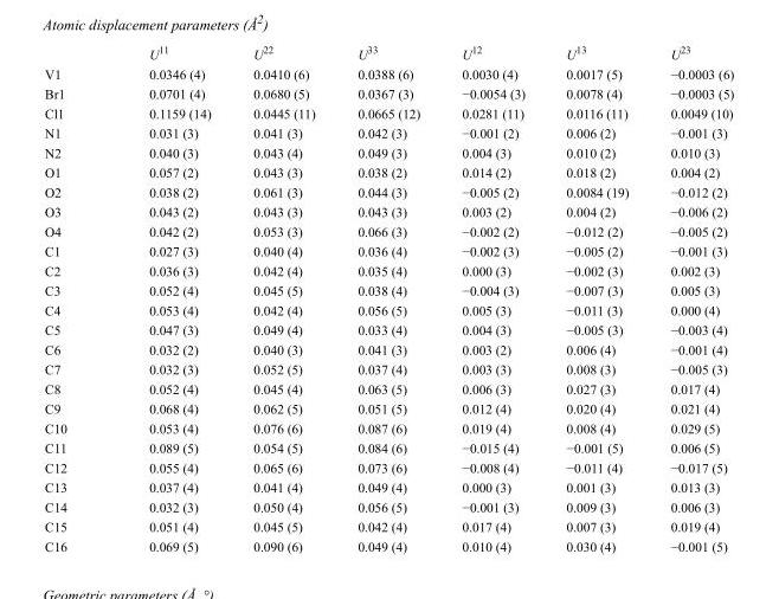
<table><thead><tr><td></td><td>U<sup>11</sup></td><td>U<sup>22</sup></td><td>U<sup>33</sup></td><td>U<sup>12</sup></td><td>U<sup>13</sup></td><td>U<sup>23</sup></td></tr></thead><tbody><tr><td>V1</td><td>0.0346 (4)</td><td>0.0410 (6)</td><td>0.0388 (6)</td><td>0.0030 (4)</td><td>0.0017 (5)</td><td>−0.0003 (6)</td></tr><tr><td>Br1</td><td>0.0701 (4)</td><td>0.0680 (5)</td><td>0.0367 (3)</td><td>−0.0054 (3)</td><td>0.0078 (4)</td><td>−0.0003 (5)</td></tr><tr><td>Cl1</td><td>0.1159 (14)</td><td>0.0445 (11)</td><td>0.0665 (12)</td><td>0.0281 (11)</td><td>0.0116 (11)</td><td>0.0049 (10)</td></tr><tr><td>N1</td><td>0.031 (3)</td><td>0.041 (3)</td><td>0.042 (3)</td><td>−0.001 (2)</td><td>0.006 (2)</td><td>−0.001 (3)</td></tr><tr><td>N2</td><td>0.040 (3)</td><td>0.043 (4)</td><td>0.049 (3)</td><td>0.004 (3)</td><td>0.010 (2)</td><td>0.010 (3)</td></tr><tr><td>O1</td><td>0.057 (2)</td><td>0.043 (3)</td><td>0.038 (2)</td><td>0.014 (2)</td><td>0.018 (2)</td><td>0.004 (2)</td></tr><tr><td>O2</td><td>0.038 (2)</td><td>0.061 (3)</td><td>0.044 (3)</td><td>−0.005 (2)</td><td>0.0084 (19)</td><td>−0.012 (2)</td></tr><tr><td>O3</td><td>0.043 (2)</td><td>0.043 (3)</td><td>0.043 (3)</td><td>0.003 (2)</td><td>0.004 (2)</td><td>−0.006 (2)</td></tr><tr><td>O4</td><td>0.042 (2)</td><td>0.053 (3)</td><td>0.066 (3)</td><td>−0.002 (2)</td><td>−0.012 (2)</td><td>−0.005 (2)</td></tr><tr><td>C1</td><td>0.027 (3)</td><td>0.040 (4)</td><td>0.036 (4)</td><td>−0.002 (3)</td><td>−0.005 (2)</td><td>−0.001 (3)</td></tr><tr><td>C2</td><td>0.036 (3)</td><td>0.042 (4)</td><td>0.035 (4)</td><td>0.000 (3)</td><td>−0.002 (3)</td><td>0.002 (3)</td></tr><tr><td>C3</td><td>0.052 (4)</td><td>0.045 (5)</td><td>0.038 (4)</td><td>−0.004 (3)</td><td>−0.007 (3)</td><td>0.005 (3)</td></tr><tr><td>C4</td><td>0.053 (4)</td><td>0.042 (4)</td><td>0.056 (5)</td><td>0.005 (3)</td><td>−0.011 (3)</td><td>0.000 (4)</td></tr><tr><td>C5</td><td>0.047 (3)</td><td>0.049 (4)</td><td>0.033 (4)</td><td>0.004 (3)</td><td>−0.005 (3)</td><td>−0.003 (4)</td></tr><tr><td>C6</td><td>0.032 (2)</td><td>0.040 (3)</td><td>0.041 (3)</td><td>0.003 (2)</td><td>0.006 (4)</td><td>−0.001 (4)</td></tr><tr><td>C7</td><td>0.032 (3)</td><td>0.052 (5)</td><td>0.037 (4)</td><td>0.003 (3)</td><td>0.008 (3)</td><td>−0.005 (3)</td></tr><tr><td>C8</td><td>0.052 (4)</td><td>0.045 (4)</td><td>0.063 (5)</td><td>0.006 (3)</td><td>0.027 (3)</td><td>0.017 (4)</td></tr><tr><td>C9</td><td>0.068 (4)</td><td>0.062 (5)</td><td>0.051 (5)</td><td>0.012 (4)</td><td>0.020 (4)</td><td>0.021 (4)</td></tr><tr><td>C10</td><td>0.053 (4)</td><td>0.076 (6)</td><td>0.087 (6)</td><td>0.019 (4)</td><td>0.008 (4)</td><td>0.029 (5)</td></tr><tr><td>C11</td><td>0.089 (5)</td><td>0.054 (5)</td><td>0.084 (6)</td><td>−0.015 (4)</td><td>−0.001 (5)</td><td>0.006 (5)</td></tr><tr><td>C12</td><td>0.055 (4)</td><td>0.065 (6)</td><td>0.073 (6)</td><td>−0.008 (4)</td><td>−0.011 (4)</td><td>−0.017 (5)</td></tr><tr><td>C13</td><td>0.037 (4)</td><td>0.041 (4)</td><td>0.049 (4)</td><td>0.000 (3)</td><td>0.001 (3)</td><td>0.013 (3)</td></tr><tr><td>C14</td><td>0.032 (3)</td><td>0.050 (4)</td><td>0.056 (5)</td><td>−0.001 (3)</td><td>0.009 (3)</td><td>0.006 (3)</td></tr><tr><td>C15</td><td>0.051 (4)</td><td>0.045 (5)</td><td>0.042 (4)</td><td>0.017 (4)</td><td>0.007 (3)</td><td>0.019 (4)</td></tr><tr><td>C16</td><td>0.069 (5)</td><td>0.090 (6)</td><td>0.049 (4)</td><td>0.010 (4)</td><td>0.030 (4)</td><td>−0.001 (5)</td></tr></tbody></table>